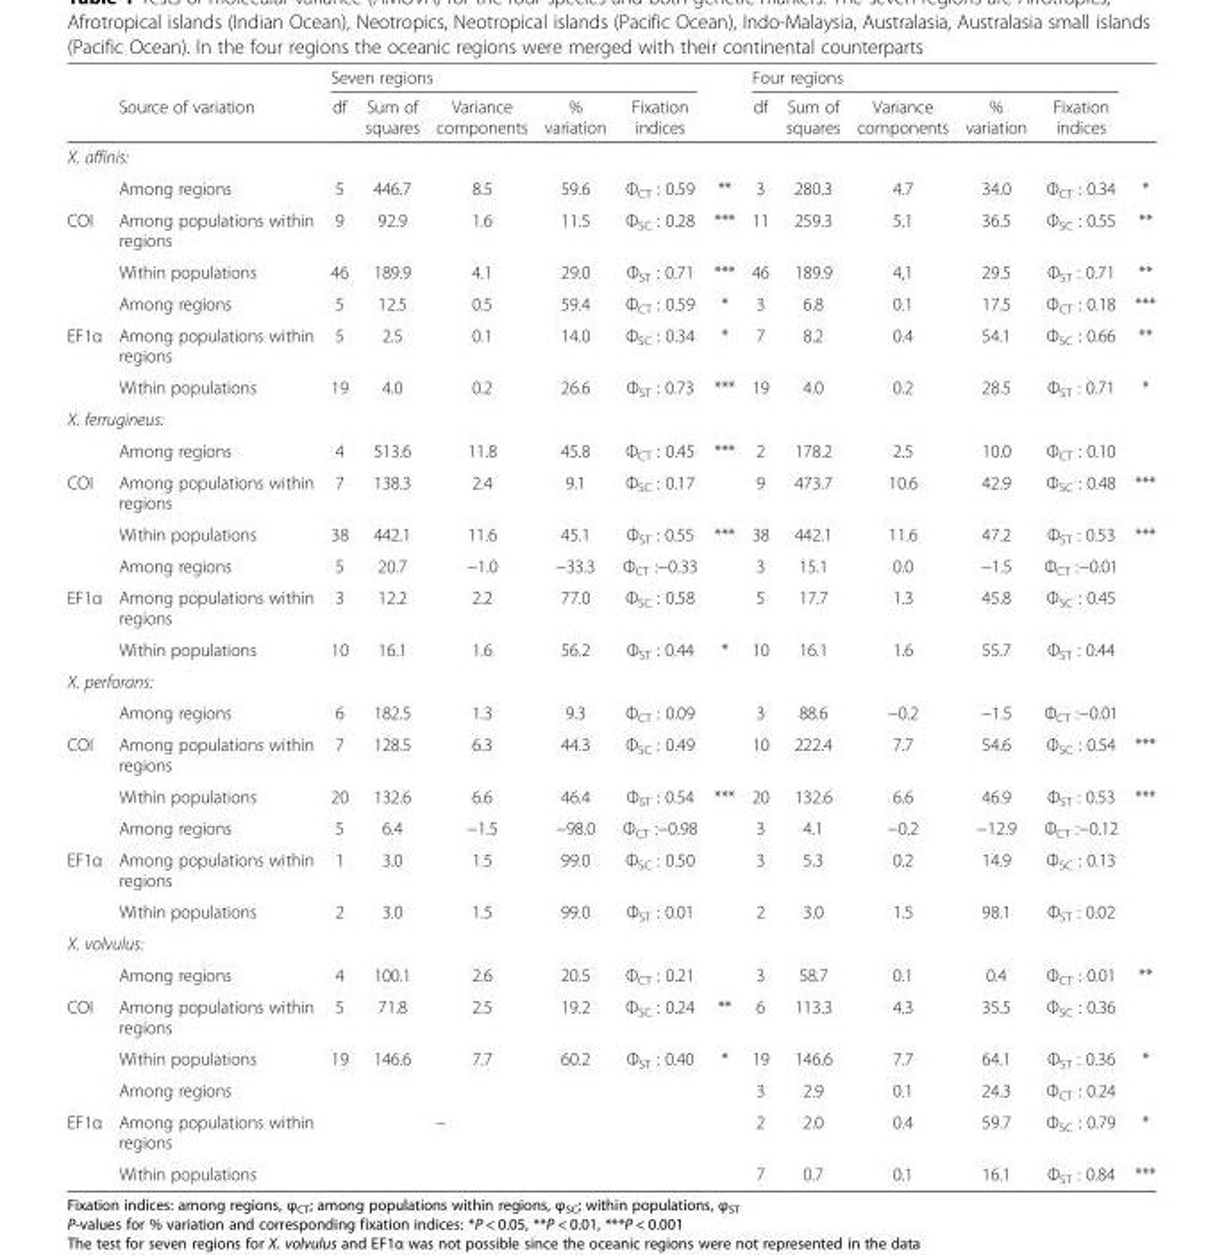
<table><thead><tr><td rowspan="2"></td><td rowspan="2">Source of variation</td><td colspan="5">Seven regions</td><td rowspan="2"></td><td colspan="5">Four regions</td><td rowspan="2"></td></tr><tr><td>df</td><td>Sum of squares</td><td>Variance components</td><td>% variation</td><td>Fixation indices</td><td>df</td><td>Sum of squares</td><td>Variance components</td><td>% variation</td><td>Fixation indices</td></tr></thead><tbody><tr><td colspan="14">X. affinis:</td></tr><tr><td></td><td>Among regions</td><td>5</td><td>446.7</td><td>8.5</td><td>59.6</td><td>Ф<sub>CT</sub> : 0.59</td><td>**</td><td>3</td><td>280.3</td><td>4.7</td><td>34.0</td><td>Ф<sub>CT</sub> : 0.34</td><td>*</td></tr><tr><td rowspan="3">COI</td><td>Among populations within regions</td><td>9</td><td>92.9</td><td>1.6</td><td>11.5</td><td>Ф<sub>SC</sub> : 0.28</td><td>***</td><td>11</td><td>259.3</td><td>5.1</td><td>36.5</td><td>Ф<sub>SC</sub> : 0.55</td><td>**</td></tr><tr><td>Within populations</td><td>46</td><td>189.9</td><td>4.1</td><td>29.0</td><td>Ф<sub>ST</sub> : 0.71</td><td>***</td><td>46</td><td>189.9</td><td>4,1</td><td>29.5</td><td>Ф<sub>ST</sub> : 0.71</td><td>**</td></tr><tr><td>Among regions</td><td>5</td><td>12.5</td><td>0.5</td><td>59.4</td><td>Ф<sub>CT</sub> : 0.59</td><td>*</td><td>3</td><td>6.8</td><td>0.1</td><td>17.5</td><td>Ф<sub>CT</sub> : 0.18</td><td>***</td></tr><tr><td rowspan="2">EF1α</td><td>Among populations within regions</td><td>5</td><td>2.5</td><td>0.1</td><td>14.0</td><td>Ф<sub>SC</sub> : 0.34</td><td>*</td><td>7</td><td>8.2</td><td>0.4</td><td>54.1</td><td>Ф<sub>SC</sub> : 0.66</td><td>**</td></tr><tr><td>Within populations</td><td>19</td><td>4.0</td><td>0.2</td><td>26.6</td><td>Ф<sub>ST</sub> : 0.73</td><td>***</td><td>19</td><td>4.0</td><td>0.2</td><td>28.5</td><td>Ф<sub>ST</sub> : 0.71</td><td>*</td></tr><tr><td colspan="14">X. ferrugineus:</td></tr><tr><td></td><td>Among regions</td><td>4</td><td>513.6</td><td>11.8</td><td>45.8</td><td>Ф<sub>CT</sub> : 0.45</td><td>***</td><td>2</td><td>178.2</td><td>2.5</td><td>10.0</td><td>Ф<sub>CT</sub> : 0.10</td><td></td></tr><tr><td rowspan="3">COI</td><td>Among populations within regions</td><td>7</td><td>138.3</td><td>2.4</td><td>9.1</td><td>Ф<sub>SC</sub> : 0.17</td><td></td><td>9</td><td>473.7</td><td>10.6</td><td>42.9</td><td>Ф<sub>SC</sub> : 0.48</td><td>***</td></tr><tr><td>Within populations</td><td>38</td><td>442.1</td><td>11.6</td><td>45.1</td><td>Ф<sub>ST</sub> : 0.55</td><td>***</td><td>38</td><td>442.1</td><td>11.6</td><td>47.2</td><td>Ф<sub>ST</sub> : 0.53</td><td>***</td></tr><tr><td>Among regions</td><td>5</td><td>20.7</td><td>−1.0</td><td>−33.3</td><td>Ф<sub>CT</sub> :−0.33</td><td></td><td>3</td><td>15.1</td><td>0.0</td><td>−1.5</td><td>Ф<sub>CT</sub> :−0.01</td><td></td></tr><tr><td rowspan="2">EF1α</td><td>Among populations within regions</td><td>3</td><td>12.2</td><td>2.2</td><td>77.0</td><td>Ф<sub>SC</sub> : 0.58</td><td></td><td>5</td><td>17.7</td><td>1.3</td><td>45.8</td><td>Ф<sub>SC</sub> : 0.45</td><td></td></tr><tr><td>Within populations</td><td>10</td><td>16.1</td><td>1.6</td><td>56.2</td><td>Ф<sub>ST</sub> : 0.44</td><td>*</td><td>10</td><td>16.1</td><td>1.6</td><td>55.7</td><td>Ф<sub>ST</sub> : 0.44</td><td></td></tr><tr><td colspan="14">X. perforans:</td></tr><tr><td></td><td>Among regions</td><td>6</td><td>182.5</td><td>1.3</td><td>9.3</td><td>Ф<sub>CT</sub> : 0.09</td><td></td><td>3</td><td>88.6</td><td>−0.2</td><td>−1.5</td><td>Ф<sub>CT</sub> :−0.01</td><td></td></tr><tr><td rowspan="3">COI</td><td>Among populations within regions</td><td>7</td><td>128.5</td><td>6.3</td><td>44.3</td><td>Ф<sub>SC</sub> : 0.49</td><td></td><td>10</td><td>222.4</td><td>7.7</td><td>54.6</td><td>Ф<sub>SC</sub> : 0.54</td><td>***</td></tr><tr><td>Within populations</td><td>20</td><td>132.6</td><td>6.6</td><td>46.4</td><td>Ф<sub>ST</sub> : 0.54</td><td>***</td><td>20</td><td>132.6</td><td>6.6</td><td>46.9</td><td>Ф<sub>ST</sub> : 0.53</td><td>***</td></tr><tr><td>Among regions</td><td>5</td><td>6.4</td><td>−1.5</td><td>−98.0</td><td>Ф<sub>CT</sub> :−0.98</td><td></td><td>3</td><td>4.1</td><td>−0.2</td><td>−12.9</td><td>Ф<sub>CT</sub> :−0.12</td><td></td></tr><tr><td rowspan="2">EF1α</td><td>Among populations within regions</td><td>1</td><td>3.0</td><td>1.5</td><td>99.0</td><td>Ф<sub>SC</sub> : 0.50</td><td></td><td>3</td><td>5.3</td><td>0.2</td><td>14.9</td><td>Ф<sub>SC</sub> : 0.13</td><td></td></tr><tr><td>Within populations</td><td>2</td><td>3.0</td><td>1.5</td><td>99.0</td><td>Ф<sub>ST</sub> : 0.01</td><td></td><td>2</td><td>3.0</td><td>1.5</td><td>98.1</td><td>Ф<sub>ST</sub> : 0.02</td><td></td></tr><tr><td colspan="14">X. volvulus:</td></tr><tr><td></td><td>Among regions</td><td>4</td><td>100.1</td><td>2.6</td><td>20.5</td><td>Ф<sub>CT</sub> : 0.21</td><td></td><td>3</td><td>58.7</td><td>0.1</td><td>0.4</td><td>Ф<sub>CT</sub> : 0.01</td><td>**</td></tr><tr><td rowspan="3">COI</td><td>Among populations within regions</td><td>5</td><td>71.8</td><td>2.5</td><td>19.2</td><td>Ф<sub>SC</sub> : 0.24</td><td>**</td><td>6</td><td>113.3</td><td>4.3</td><td>35.5</td><td>Ф<sub>SC</sub> : 0.36</td><td></td></tr><tr><td>Within populations</td><td>19</td><td>146.6</td><td>7.7</td><td>60.2</td><td>Ф<sub>ST</sub> : 0.40</td><td>*</td><td>19</td><td>146.6</td><td>7.7</td><td>64.1</td><td>Ф<sub>ST</sub> : 0.36</td><td>*</td></tr><tr><td>Among regions</td><td></td><td></td><td></td><td></td><td></td><td></td><td>3</td><td>2.9</td><td>0.1</td><td>24.3</td><td>Ф<sub>CT</sub> : 0.24</td><td></td></tr><tr><td rowspan="2">EF1α</td><td>Among populations within regions</td><td></td><td></td><td colspan="2">–</td><td></td><td></td><td>2</td><td>2.0</td><td>0.4</td><td>59.7</td><td>Ф<sub>SC</sub> : 0.79</td><td>*</td></tr><tr><td>Within populations</td><td></td><td></td><td></td><td></td><td></td><td></td><td>7</td><td>0.7</td><td>0.1</td><td>16.1</td><td>Ф<sub>ST</sub> : 0.84</td><td>***</td></tr></tbody></table>